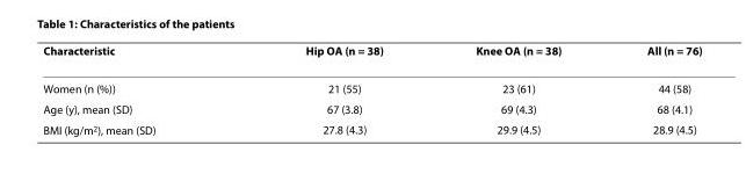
<table><thead><tr><td>Characteristic</td><td>Hip OA (n = 38)</td><td>Knee OA (n = 38)</td><td>All (n = 76)</td></tr></thead><tbody><tr><td>Women (n (%))</td><td>21 (55)</td><td>23 (61)</td><td>44 (58)</td></tr><tr><td>Age (y), mean (SD)</td><td>67 (3.8)</td><td>69 (4.3)</td><td>68 (4.1)</td></tr><tr><td>BMI (kg/m<sup>2</sup>), mean (SD)</td><td>27.8 (4.3)</td><td>29.9 (4.5)</td><td>28.9 (4.5)</td></tr></tbody></table>